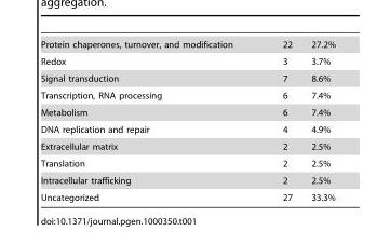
<table><tbody><tr><td>Protein chaperones, turnover, and modification</td><td>22</td><td>27.2%</td></tr><tr><td>Redox</td><td>3</td><td>3.7%</td></tr><tr><td>Signal transduction</td><td>7</td><td>8.6%</td></tr><tr><td>Transcription, RNA processing</td><td>6</td><td>7.4%</td></tr><tr><td>Metabolism</td><td>6</td><td>7.4%</td></tr><tr><td>DNA replication and repair</td><td>4</td><td>4.9%</td></tr><tr><td>Extracellular matrix</td><td>2</td><td>2.5%</td></tr><tr><td>Translation</td><td>2</td><td>2.5%</td></tr><tr><td>Intracellular trafficking</td><td>2</td><td>2.5%</td></tr><tr><td>Uncategorized</td><td>27</td><td>33.3%</td></tr></tbody></table>